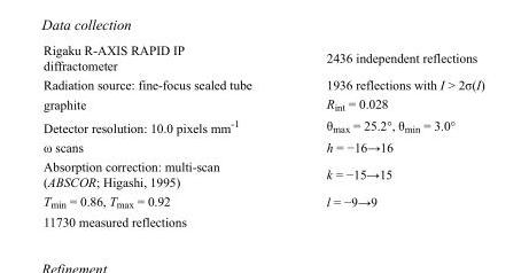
<table><tbody><tr><td>Rigaku R-AXIS RAPID IP diffractometer</td><td>2436 independent reflections</td></tr><tr><td>Radiation source: fine-focus sealed tube</td><td>1936 reflections with I &gt; 2σ(I)</td></tr><tr><td>graphite</td><td>R<sub>int</sub> = 0.028</td></tr><tr><td>Detector resolution: 10.0 pixels mm<sup>-1</sup></td><td>θ<sub>max</sub> = 25.2°, θ<sub>min</sub> = 3.0°</td></tr><tr><td>ω scans</td><td>h = −16→16</td></tr><tr><td>Absorption correction: multi-scan (ABSCOR; Higashi, 1995)</td><td>k = −15→15</td></tr><tr><td>T<sub>min</sub> = 0.86, T<sub>max</sub> = 0.92</td><td>l = −9→9</td></tr><tr><td>11730 measured reflections</td><td></td></tr></tbody></table>